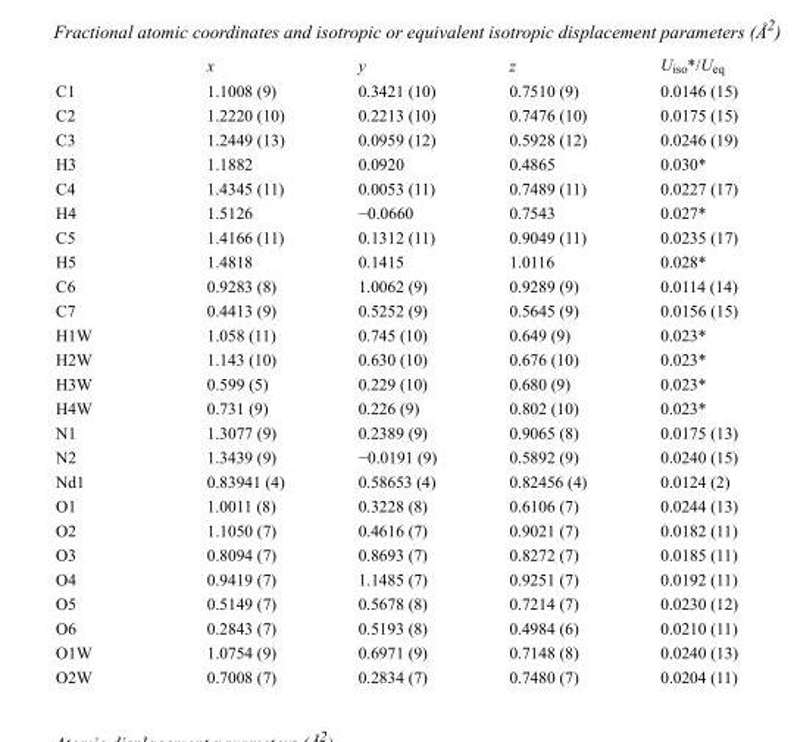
<table><thead><tr><td></td><td>x</td><td>y</td><td>z</td><td>U<sub>iso</sub>*/U<sub>eq</sub></td></tr></thead><tbody><tr><td>C1</td><td>1.1008 (9)</td><td>0.3421 (10)</td><td>0.7510 (9)</td><td>0.0146 (15)</td></tr><tr><td>C2</td><td>1.2220 (10)</td><td>0.2213 (10)</td><td>0.7476 (10)</td><td>0.0175 (15)</td></tr><tr><td>C3</td><td>1.2449 (13)</td><td>0.0959 (12)</td><td>0.5928 (12)</td><td>0.0246 (19)</td></tr><tr><td>H3</td><td>1.1882</td><td>0.0920</td><td>0.4865</td><td>0.030*</td></tr><tr><td>C4</td><td>1.4345 (11)</td><td>0.0053 (11)</td><td>0.7489 (11)</td><td>0.0227 (17)</td></tr><tr><td>H4</td><td>1.5126</td><td>−0.0660</td><td>0.7543</td><td>0.027*</td></tr><tr><td>C5</td><td>1.4166 (11)</td><td>0.1312 (11)</td><td>0.9049 (11)</td><td>0.0235 (17)</td></tr><tr><td>H5</td><td>1.4818</td><td>0.1415</td><td>1.0116</td><td>0.028*</td></tr><tr><td>C6</td><td>0.9283 (8)</td><td>1.0062 (9)</td><td>0.9289 (9)</td><td>0.0114 (14)</td></tr><tr><td>C7</td><td>0.4413 (9)</td><td>0.5252 (9)</td><td>0.5645 (9)</td><td>0.0156 (15)</td></tr><tr><td>H1W</td><td>1.058 (11)</td><td>0.745 (10)</td><td>0.649 (9)</td><td>0.023*</td></tr><tr><td>H2W</td><td>1.143 (10)</td><td>0.630 (10)</td><td>0.676 (10)</td><td>0.023*</td></tr><tr><td>H3W</td><td>0.599 (5)</td><td>0.229 (10)</td><td>0.680 (9)</td><td>0.023*</td></tr><tr><td>H4W</td><td>0.731 (9)</td><td>0.226 (9)</td><td>0.802 (10)</td><td>0.023*</td></tr><tr><td>N1</td><td>1.3077 (9)</td><td>0.2389 (9)</td><td>0.9065 (8)</td><td>0.0175 (13)</td></tr><tr><td>N2</td><td>1.3439 (9)</td><td>−0.0191 (9)</td><td>0.5892 (9)</td><td>0.0240 (15)</td></tr><tr><td>Nd1</td><td>0.83941 (4)</td><td>0.58653 (4)</td><td>0.82456 (4)</td><td>0.0124 (2)</td></tr><tr><td>O1</td><td>1.0011 (8)</td><td>0.3228 (8)</td><td>0.6106 (7)</td><td>0.0244 (13)</td></tr><tr><td>O2</td><td>1.1050 (7)</td><td>0.4616 (7)</td><td>0.9021 (7)</td><td>0.0182 (11)</td></tr><tr><td>O3</td><td>0.8094 (7)</td><td>0.8693 (7)</td><td>0.8272 (7)</td><td>0.0185 (11)</td></tr><tr><td>O4</td><td>0.9419 (7)</td><td>1.1485 (7)</td><td>0.9251 (7)</td><td>0.0192 (11)</td></tr><tr><td>O5</td><td>0.5149 (7)</td><td>0.5678 (8)</td><td>0.7214 (7)</td><td>0.0230 (12)</td></tr><tr><td>O6</td><td>0.2843 (7)</td><td>0.5193 (8)</td><td>0.4984 (6)</td><td>0.0210 (11)</td></tr><tr><td>O1W</td><td>1.0754 (9)</td><td>0.6971 (9)</td><td>0.7148 (8)</td><td>0.0240 (13)</td></tr><tr><td>O2W</td><td>0.7008 (7)</td><td>0.2834 (7)</td><td>0.7480 (7)</td><td>0.0204 (11)</td></tr></tbody></table>